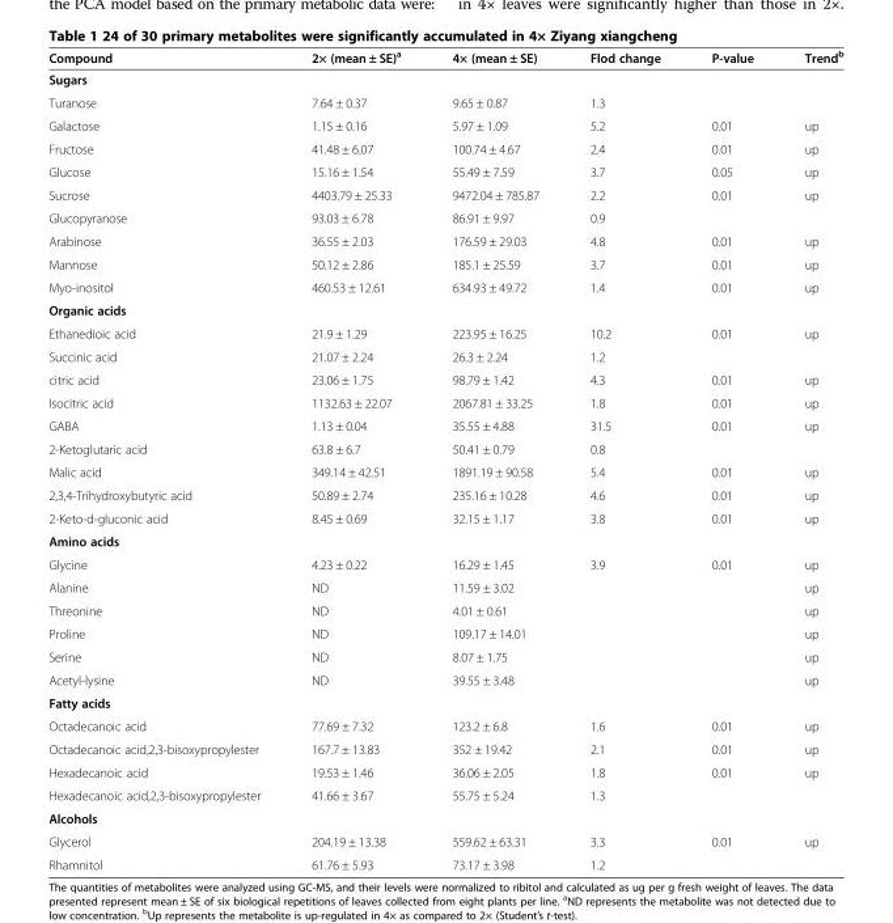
<table><thead><tr><td>Compound</td><td>2× (mean ± SE)<sup>a</sup></td><td>4× (mean ± SE)</td><td>Flod change</td><td>P-value</td><td>Trend<sup>b</sup></td></tr></thead><tbody><tr><td colspan="6">Sugars</td></tr><tr><td>Turanose</td><td>7.64 ± 0.37</td><td>9.65 ± 0.87</td><td>1.3</td><td></td><td></td></tr><tr><td>Galactose</td><td>1.15 ± 0.16</td><td>5.97 ± 1.09</td><td>5.2</td><td>0.01</td><td>up</td></tr><tr><td>Fructose</td><td>41.48 ± 6.07</td><td>100.74 ± 4.67</td><td>2.4</td><td>0.01</td><td>up</td></tr><tr><td>Glucose</td><td>15.16 ± 1.54</td><td>55.49 ± 7.59</td><td>3.7</td><td>0.05</td><td>up</td></tr><tr><td>Sucrose</td><td>4403.79 ± 25.33</td><td>9472.04 ± 785.87</td><td>2.2</td><td>0.01</td><td>up</td></tr><tr><td>Glucopyranose</td><td>93.03 ± 6.78</td><td>86.91 ± 9.97</td><td>0.9</td><td></td><td></td></tr><tr><td>Arabinose</td><td>36.55 ± 2.03</td><td>176.59 ± 29.03</td><td>4.8</td><td>0.01</td><td>up</td></tr><tr><td>Mannose</td><td>50.12 ± 2.86</td><td>185.1 ± 25.59</td><td>3.7</td><td>0.01</td><td>up</td></tr><tr><td>Myo-inositol</td><td>460.53 ± 12.61</td><td>634.93 ± 49.72</td><td>1.4</td><td>0.01</td><td>up</td></tr><tr><td colspan="6">Organic acids</td></tr><tr><td>Ethanedioic acid</td><td>21.9 ± 1.29</td><td>223.95 ± 16.25</td><td>10.2</td><td>0.01</td><td>up</td></tr><tr><td>Succinic acid</td><td>21.07 ± 2.24</td><td>26.3 ± 2.24</td><td>1.2</td><td></td><td></td></tr><tr><td>citric acid</td><td>23.06 ± 1.75</td><td>98.79 ± 1.42</td><td>4.3</td><td>0.01</td><td>up</td></tr><tr><td>Isocitric acid</td><td>1132.63 ± 22.07</td><td>2067.81 ± 33.25</td><td>1.8</td><td>0.01</td><td>up</td></tr><tr><td>GABA</td><td>1.13 ± 0.04</td><td>35.55 ± 4.88</td><td>31.5</td><td>0.01</td><td>up</td></tr><tr><td>2-Ketoglutaric acid</td><td>63.8 ± 6.7</td><td>50.41 ± 0.79</td><td>0.8</td><td></td><td></td></tr><tr><td>Malic acid</td><td>349.14 ± 42.51</td><td>1891.19 ± 90.58</td><td>5.4</td><td>0.01</td><td>up</td></tr><tr><td>2,3,4-Trihydroxybutyric acid</td><td>50.89 ± 2.74</td><td>235.16 ± 10.28</td><td>4.6</td><td>0.01</td><td>up</td></tr><tr><td>2-Keto-d-gluconic acid</td><td>8.45 ± 0.69</td><td>32.15 ± 1.17</td><td>3.8</td><td>0.01</td><td>up</td></tr><tr><td colspan="6">Amino acids</td></tr><tr><td>Glycine</td><td>4.23 ± 0.22</td><td>16.29 ± 1.45</td><td>3.9</td><td>0.01</td><td>up</td></tr><tr><td>Alanine</td><td>ND</td><td>11.59 ± 3.02</td><td></td><td></td><td>up</td></tr><tr><td>Threonine</td><td>ND</td><td>4.01 ± 0.61</td><td></td><td></td><td>up</td></tr><tr><td>Proline</td><td>ND</td><td>109.17 ± 14.01</td><td></td><td></td><td>up</td></tr><tr><td>Serine</td><td>ND</td><td>8.07 ± 1.75</td><td></td><td></td><td>up</td></tr><tr><td>Acetyl-lysine</td><td>ND</td><td>39.55 ± 3.48</td><td></td><td></td><td>up</td></tr><tr><td colspan="6">Fatty acids</td></tr><tr><td>Octadecanoic acid</td><td>77.69 ± 7.32</td><td>123.2 ± 6.8</td><td>1.6</td><td>0.01</td><td>up</td></tr><tr><td>Octadecanoic acid,2,3-bisoxypropylester</td><td>167.7 ± 13.83</td><td>352 ± 19.42</td><td>2.1</td><td>0.01</td><td>up</td></tr><tr><td>Hexadecanoic acid</td><td>19.53 ± 1.46</td><td>36.06 ± 2.05</td><td>1.8</td><td>0.01</td><td>up</td></tr><tr><td>Hexadecanoic acid,2,3-bisoxypropylester</td><td>41.66 ± 3.67</td><td>55.75 ± 5.24</td><td>1.3</td><td></td><td></td></tr><tr><td colspan="6">Alcohols</td></tr><tr><td>Glycerol</td><td>204.19 ± 13.38</td><td>559.62 ± 63.31</td><td>3.3</td><td>0.01</td><td>up</td></tr><tr><td>Rhamnitol</td><td>61.76 ± 5.93</td><td>73.17 ± 3.98</td><td>1.2</td><td></td><td></td></tr></tbody></table>